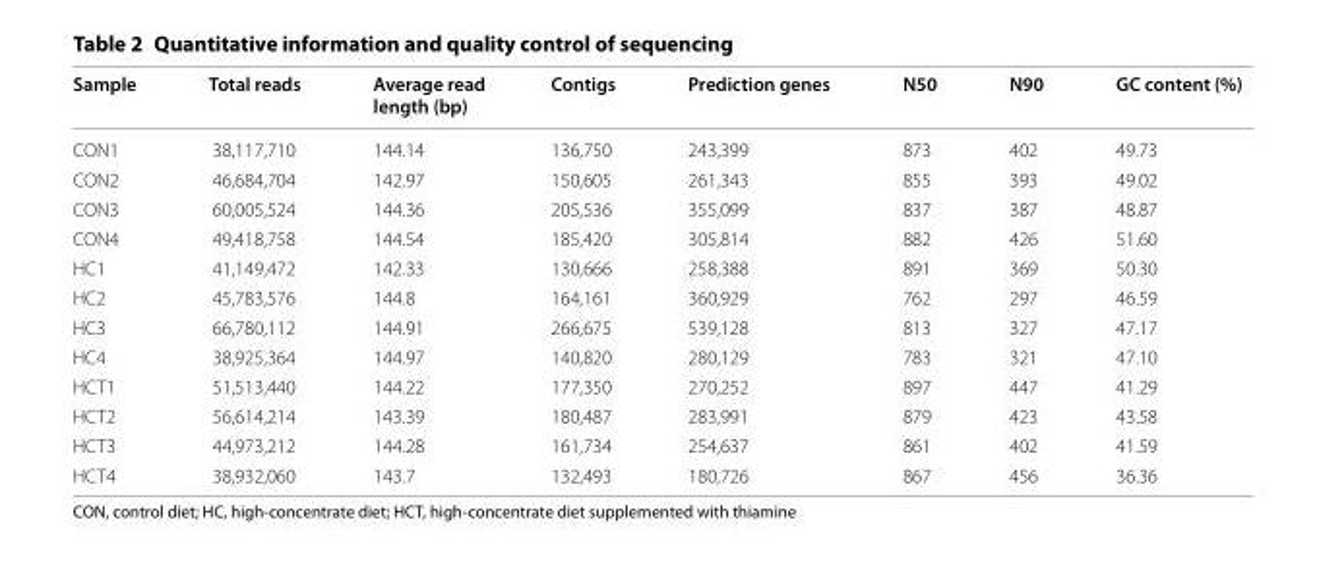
<table><thead><tr><td>Sample</td><td>Total reads</td><td>Average read length (bp)</td><td>Contigs</td><td>Prediction genes</td><td>N50</td><td>N90</td><td>GC content (%)</td></tr></thead><tbody><tr><td>CON1</td><td>38,117,710</td><td>144.14</td><td>136,750</td><td>243,399</td><td>873</td><td>402</td><td>49.73</td></tr><tr><td>CON2</td><td>46,684,704</td><td>142.97</td><td>150,605</td><td>261,343</td><td>855</td><td>393</td><td>49.02</td></tr><tr><td>CON3</td><td>60,005,524</td><td>144.36</td><td>205,536</td><td>355,099</td><td>837</td><td>387</td><td>48.87</td></tr><tr><td>CON4</td><td>49,418,758</td><td>144.54</td><td>185,420</td><td>305,814</td><td>882</td><td>426</td><td>51.60</td></tr><tr><td>HC1</td><td>41,149,472</td><td>142.33</td><td>130,666</td><td>258,388</td><td>891</td><td>369</td><td>50.30</td></tr><tr><td>HC2</td><td>45,783,576</td><td>144.8</td><td>164,161</td><td>360,929</td><td>762</td><td>297</td><td>46.59</td></tr><tr><td>HC3</td><td>66,780,112</td><td>144.91</td><td>266,675</td><td>539,128</td><td>813</td><td>327</td><td>47.17</td></tr><tr><td>HC4</td><td>38,925,364</td><td>144.97</td><td>140,820</td><td>280,129</td><td>783</td><td>321</td><td>47.10</td></tr><tr><td>HCT1</td><td>51,513,440</td><td>144.22</td><td>177,350</td><td>270,252</td><td>897</td><td>447</td><td>41.29</td></tr><tr><td>HCT2</td><td>56,614,214</td><td>143.39</td><td>180,487</td><td>283,991</td><td>879</td><td>423</td><td>43.58</td></tr><tr><td>HCT3</td><td>44,973,212</td><td>144.28</td><td>161,734</td><td>254,637</td><td>861</td><td>402</td><td>41.59</td></tr><tr><td>HCT4</td><td>38,932,060</td><td>143.7</td><td>132,493</td><td>180,726</td><td>867</td><td>456</td><td>36.36</td></tr></tbody></table>